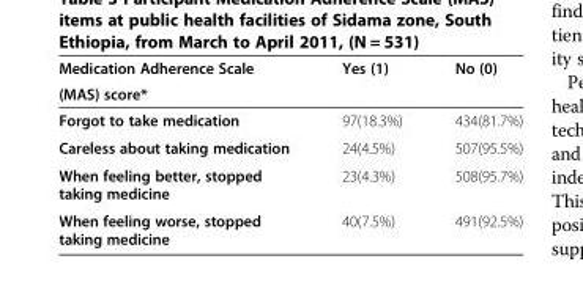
<table><thead><tr><td rowspan="2">Medication Adherence Scale (MAS) score*</td><td rowspan="2">Yes (1)</td><td rowspan="2">No (0)</td></tr><tr></tr></thead><tbody><tr><td>Forgot to take medication</td><td>97(18.3%)</td><td>434(81.7%)</td></tr><tr><td>Careless about taking medication</td><td>24(4.5%)</td><td>507(95.5%)</td></tr><tr><td>When feeling better, stopped taking medicine</td><td>23(4.3%)</td><td>508(95.7%)</td></tr><tr><td>When feeling worse, stopped taking medicine</td><td>40(7.5%)</td><td>491(92.5%)</td></tr></tbody></table>